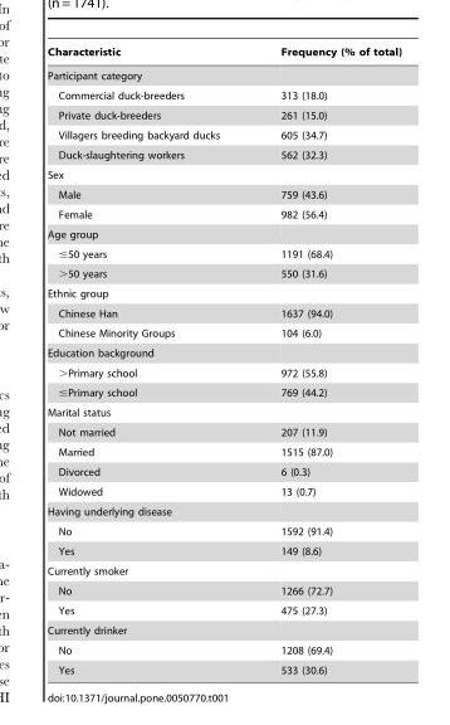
<table><thead><tr><td>Characteristic</td><td>Frequency (% of total)</td></tr></thead><tbody><tr><td colspan="2">Participant category</td></tr><tr><td>Commercial duck-breeders</td><td>313 (18.0)</td></tr><tr><td>Private duck-breeders</td><td>261 (15.0)</td></tr><tr><td>Villagers breeding backyard ducks</td><td>605 (34.7)</td></tr><tr><td>Duck-slaughtering workers</td><td>562 (32.3)</td></tr><tr><td colspan="2">Sex</td></tr><tr><td>Male</td><td>759 (43.6)</td></tr><tr><td>Female</td><td>982 (56.4)</td></tr><tr><td colspan="2">Age group</td></tr><tr><td>≤50 years</td><td>1191 (68.4)</td></tr><tr><td>&gt;50 years</td><td>550 (31.6)</td></tr><tr><td colspan="2">Ethnic group</td></tr><tr><td>Chinese Han</td><td>1637 (94.0)</td></tr><tr><td>Chinese Minority Groups</td><td>104 (6.0)</td></tr><tr><td colspan="2">Education background</td></tr><tr><td>&gt;Primary school</td><td>972 (55.8)</td></tr><tr><td>≤Primary school</td><td>769 (44.2)</td></tr><tr><td colspan="2">Marital status</td></tr><tr><td>Not married</td><td>207 (11.9)</td></tr><tr><td>Married</td><td>1515 (87.0)</td></tr><tr><td>Divorced</td><td>6 (0.3)</td></tr><tr><td>Widowed</td><td>13 (0.7)</td></tr><tr><td colspan="2">Having underlying disease</td></tr><tr><td>No</td><td>1592 (91.4)</td></tr><tr><td>Yes</td><td>149 (8.6)</td></tr><tr><td colspan="2">Currently smoker</td></tr><tr><td>No</td><td>1266 (72.7)</td></tr><tr><td>Yes</td><td>475 (27.3)</td></tr><tr><td colspan="2">Currently drinker</td></tr><tr><td>No</td><td>1208 (69.4)</td></tr><tr><td>Yes</td><td>533 (30.6)</td></tr></tbody></table>